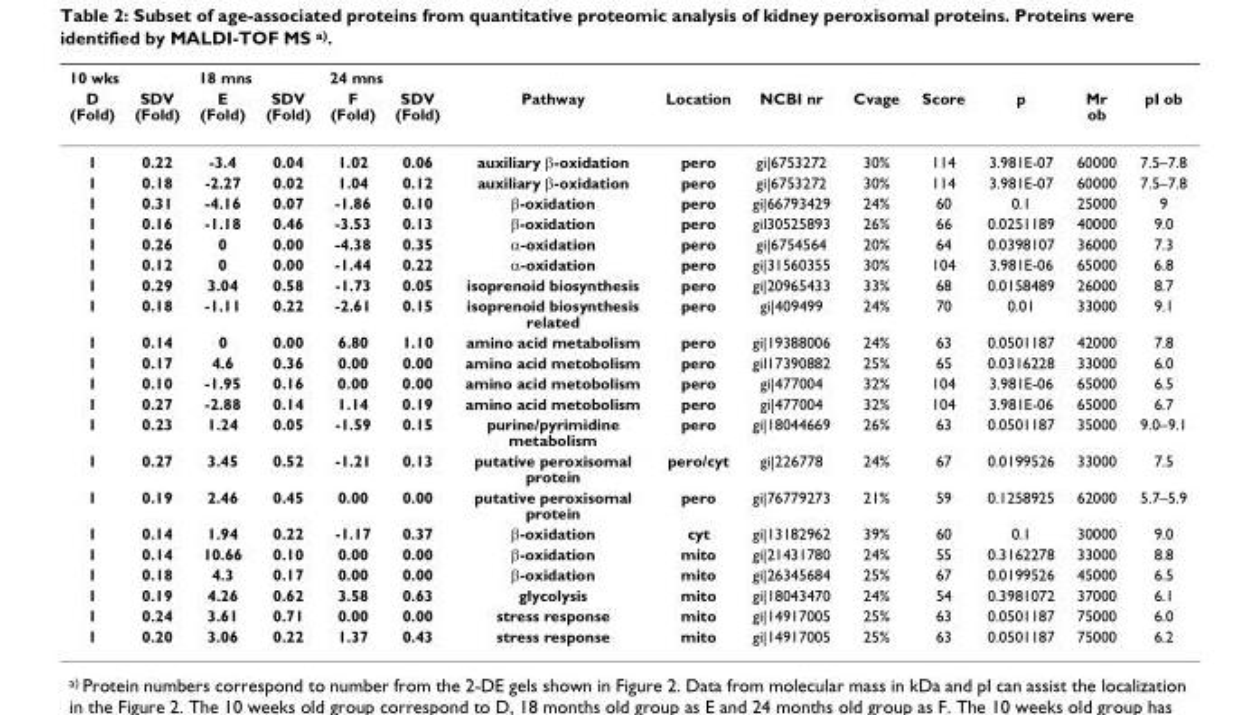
<table><thead><tr><td colspan="2">10 wks</td><td colspan="2">18 mns</td><td colspan="2">24 mns</td><td rowspan="2">Pathway</td><td rowspan="2">Location</td><td rowspan="2">NCBI nr</td><td rowspan="2">Cvage</td><td rowspan="2">Score</td><td rowspan="2">p</td><td rowspan="2">Mr ob</td><td rowspan="2">pI ob</td></tr><tr><td>D (Fold)</td><td>SDV (Fold)</td><td>E (Fold)</td><td>SDV (Fold)</td><td>F (Fold)</td><td>SDV (Fold)</td></tr></thead><tbody><tr><td>1</td><td>0.22</td><td>-3.4</td><td>0.04</td><td>1.02</td><td>0.06</td><td>auxiliary β-oxidation</td><td>pero</td><td>gi|6753272</td><td>30%</td><td>114</td><td>3.981E-07</td><td>60000</td><td>7.5–7.8</td></tr><tr><td>1</td><td>0.18</td><td>-2.27</td><td>0.02</td><td>1.04</td><td>0.12</td><td>auxiliary β-oxidation</td><td>pero</td><td>gi|6753272</td><td>30%</td><td>114</td><td>3.981E-07</td><td>60000</td><td>7.5–7.8</td></tr><tr><td>1</td><td>0.31</td><td>-4.16</td><td>0.07</td><td>-1.86</td><td>0.10</td><td>β-oxidation</td><td>pero</td><td>gi|66793429</td><td>24%</td><td>60</td><td>0.1</td><td>25000</td><td>9</td></tr><tr><td>1</td><td>0.16</td><td>-1.18</td><td>0.46</td><td>-3.53</td><td>0.13</td><td>β-oxidation</td><td>pero</td><td>giI30525893</td><td>26%</td><td>66</td><td>0.0251189</td><td>40000</td><td>9.0</td></tr><tr><td>1</td><td>0.26</td><td>0</td><td>0.00</td><td>-4.38</td><td>0.35</td><td>α-oxidation</td><td>pero</td><td>gi|6754564</td><td>20%</td><td>64</td><td>0.0398107</td><td>36000</td><td>7.3</td></tr><tr><td>1</td><td>0.12</td><td>0</td><td>0.00</td><td>-1.44</td><td>0.22</td><td>α-oxidation</td><td>pero</td><td>gi|31560355</td><td>30%</td><td>104</td><td>3.981E-06</td><td>65000</td><td>6.8</td></tr><tr><td>1</td><td>0.29</td><td>3.04</td><td>0.58</td><td>-1.73</td><td>0.05</td><td>isoprenoid biosynthesis</td><td>pero</td><td>gi|20965433</td><td>33%</td><td>68</td><td>0.0158489</td><td>26000</td><td>8.7</td></tr><tr><td>1</td><td>0.18</td><td>-1.11</td><td>0.22</td><td>-2.61</td><td>0.15</td><td>isoprenoid biosynthesis related</td><td>pero</td><td>gi|409499</td><td>24%</td><td>70</td><td>0.01</td><td>33000</td><td>9.1</td></tr><tr><td>1</td><td>0.14</td><td>0</td><td>0.00</td><td>6.80</td><td>1.10</td><td>amino acid metabolism</td><td>pero</td><td>gi|19388006</td><td>24%</td><td>63</td><td>0.0501187</td><td>42000</td><td>7.8</td></tr><tr><td>1</td><td>0.17</td><td>4.6</td><td>0.36</td><td>0.00</td><td>0.00</td><td>amino acid metobolism</td><td>pero</td><td>giI17390882</td><td>25%</td><td>65</td><td>0.0316228</td><td>33000</td><td>6.0</td></tr><tr><td>1</td><td>0.10</td><td>-1.95</td><td>0.16</td><td>0.00</td><td>0.00</td><td>amino acid metobolism</td><td>pero</td><td>gi|477004</td><td>32%</td><td>104</td><td>3.981E-06</td><td>65000</td><td>6.5</td></tr><tr><td>1</td><td>0.27</td><td>-2.88</td><td>0.14</td><td>1.14</td><td>0.19</td><td>amino acid metobolism</td><td>pero</td><td>gi|477004</td><td>32%</td><td>104</td><td>3.981E-06</td><td>65000</td><td>6.7</td></tr><tr><td>1</td><td>0.23</td><td>1.24</td><td>0.05</td><td>-1.59</td><td>0.15</td><td>purine/pyrimidine metabolism</td><td>pero</td><td>gi|18044669</td><td>26%</td><td>63</td><td>0.0501187</td><td>35000</td><td>9.0–9.1</td></tr><tr><td>1</td><td>0.27</td><td>3.45</td><td>0.52</td><td>-1.21</td><td>0.13</td><td>putative peroxisomal protein</td><td>pero/cyt</td><td>gi|226778</td><td>24%</td><td>67</td><td>0.0199526</td><td>33000</td><td>7.5</td></tr><tr><td>1</td><td>0.19</td><td>2.46</td><td>0.45</td><td>0.00</td><td>0.00</td><td>putative peroxisomal protein</td><td>pero</td><td>gi|76779273</td><td>21%</td><td>59</td><td>0.1258925</td><td>62000</td><td>5.7–5.9</td></tr><tr><td>1</td><td>0.14</td><td>1.94</td><td>0.22</td><td>-1.17</td><td>0.37</td><td>β-oxidation</td><td>cyt</td><td>gi|13182962</td><td>39%</td><td>60</td><td>0.1</td><td>30000</td><td>9.0</td></tr><tr><td>1</td><td>0.14</td><td>10.66</td><td>0.10</td><td>0.00</td><td>0.00</td><td>β-oxidation</td><td>mito</td><td>gi|21431780</td><td>24%</td><td>55</td><td>0.3162278</td><td>33000</td><td>8.8</td></tr><tr><td>1</td><td>0.18</td><td>4.3</td><td>0.17</td><td>0.00</td><td>0.00</td><td>β-oxidation</td><td>mito</td><td>gi|26345684</td><td>25%</td><td>67</td><td>0.0199526</td><td>45000</td><td>6.5</td></tr><tr><td>1</td><td>0.19</td><td>4.26</td><td>0.62</td><td>3.58</td><td>0.63</td><td>glycolysis</td><td>mito</td><td>gi|18043470</td><td>24%</td><td>54</td><td>0.3981072</td><td>37000</td><td>6.1</td></tr><tr><td>1</td><td>0.24</td><td>3.61</td><td>0.71</td><td>0.00</td><td>0.00</td><td>stress response</td><td>mito</td><td>gi|14917005</td><td>25%</td><td>63</td><td>0.0501187</td><td>75000</td><td>6.0</td></tr><tr><td>1</td><td>0.20</td><td>3.06</td><td>0.22</td><td>1.37</td><td>0.43</td><td>stress response</td><td>mito</td><td>gi|14917005</td><td>25%</td><td>63</td><td>0.0501187</td><td>75000</td><td>6.2</td></tr></tbody></table>